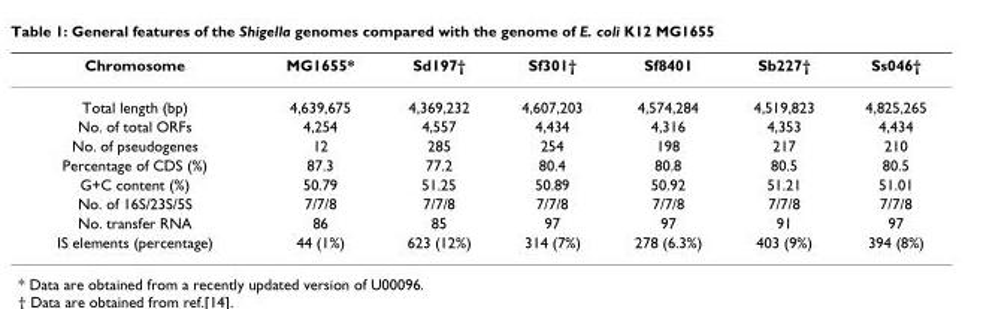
<table><thead><tr><td>Chromosome</td><td>MG1655*</td><td>Sd197†</td><td>Sf301†</td><td>Sf8401</td><td>Sb227†</td><td>Ss046†</td></tr></thead><tbody><tr><td>Total length (bp)</td><td>4,639,675</td><td>4,369,232</td><td>4,607,203</td><td>4,574,284</td><td>4,519,823</td><td>4,825,265</td></tr><tr><td>No. of total ORFs</td><td>4,254</td><td>4,557</td><td>4,434</td><td>4,316</td><td>4,353</td><td>4,434</td></tr><tr><td>No. of pseudogenes</td><td>12</td><td>285</td><td>254</td><td>198</td><td>217</td><td>210</td></tr><tr><td>Percentage of CDS (%)</td><td>87.3</td><td>77.2</td><td>80.4</td><td>80.8</td><td>80.5</td><td>80.5</td></tr><tr><td>G+C content (%)</td><td>50.79</td><td>51.25</td><td>50.89</td><td>50.92</td><td>51.21</td><td>51.01</td></tr><tr><td>No. of 16S/23S/5S</td><td>7/7/8</td><td>7/7/8</td><td>7/7/8</td><td>7/7/8</td><td>7/7/8</td><td>7/7/8</td></tr><tr><td>No. transfer RNA</td><td>86</td><td>85</td><td>97</td><td>97</td><td>91</td><td>97</td></tr><tr><td>IS elements (percentage)</td><td>44 (1%)</td><td>623 (12%)</td><td>314 (7%)</td><td>278 (6.3%)</td><td>403 (9%)</td><td>394 (8%)</td></tr></tbody></table>